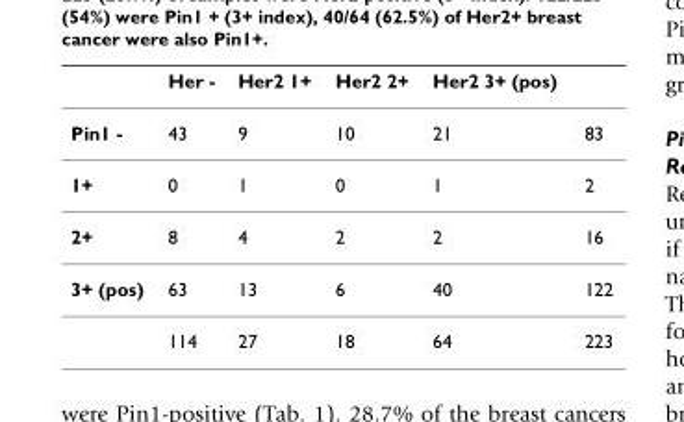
<table><thead><tr><td></td><td>Her -</td><td>Her2 1+</td><td>Her2 2+</td><td>Her2 3+ (pos)</td><td></td></tr></thead><tbody><tr><td>Pin1 -</td><td>43</td><td>9</td><td>10</td><td>21</td><td>83</td></tr><tr><td>1+</td><td>0</td><td>1</td><td>0</td><td>1</td><td>2</td></tr><tr><td>2+</td><td>8</td><td>4</td><td>2</td><td>2</td><td>16</td></tr><tr><td rowspan="2">3+ (pos)</td><td>63</td><td>13</td><td>6</td><td>40</td><td>122</td></tr><tr><td>114</td><td>27</td><td>18</td><td>64</td><td>223</td></tr></tbody></table>